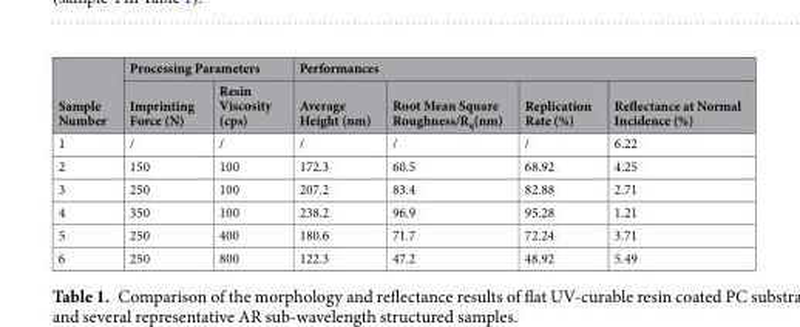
<table><thead><tr><td rowspan="2">Sample Number</td><td colspan="2">Processing Parameters</td><td colspan="4">Performances</td></tr><tr><td>Imprinting Force (N)</td><td>Resin Viscosity (cps)</td><td>Average Height (nm)</td><td>Root Mean Square Roughness/R<sub>q</sub>(nm)</td><td>Replication Rate (%)</td><td>Reflectance at Normal Incidence (%)</td></tr></thead><tbody><tr><td>1</td><td>/</td><td>/</td><td>/</td><td>/</td><td>/</td><td>6.22</td></tr><tr><td>2</td><td>150</td><td>100</td><td>172.3</td><td>60.5</td><td>68.92</td><td>4.25</td></tr><tr><td>3</td><td>250</td><td>100</td><td>207.2</td><td>83.4</td><td>82.88</td><td>2.71</td></tr><tr><td>4</td><td>350</td><td>100</td><td>238.2</td><td>96.9</td><td>95.28</td><td>1.21</td></tr><tr><td>5</td><td>250</td><td>400</td><td>180.6</td><td>71.7</td><td>72.24</td><td>3.71</td></tr><tr><td>6</td><td>250</td><td>800</td><td>122.3</td><td>47.2</td><td>48.92</td><td>5.49</td></tr></tbody></table>